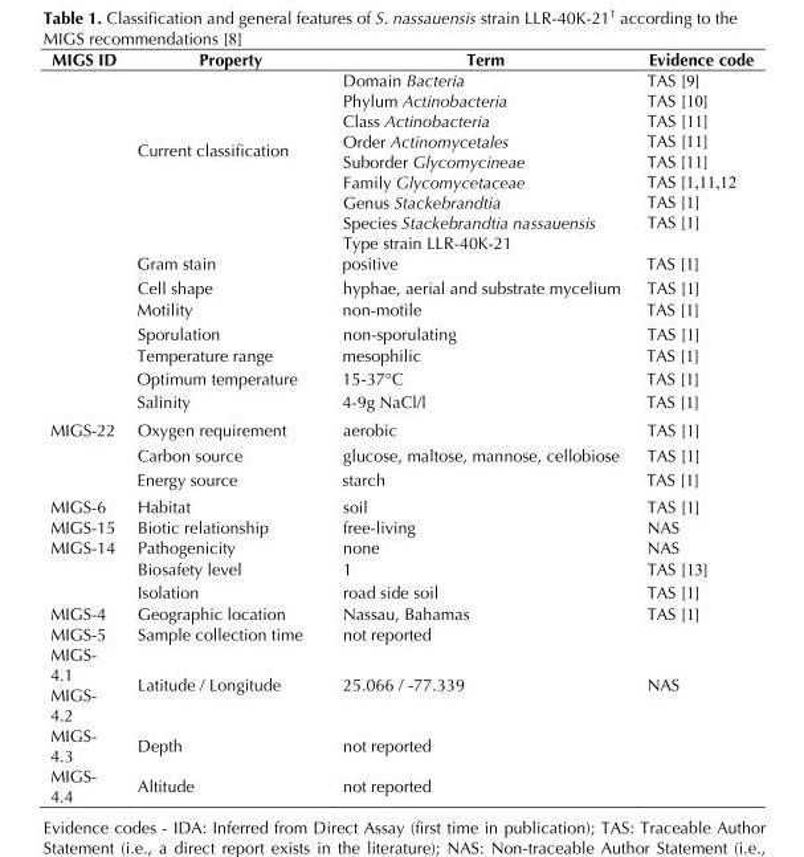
<table><thead><tr><td>MIGS ID</td><td>Property</td><td>Term</td><td>Evidence code</td></tr></thead><tbody><tr><td></td><td>Current classification</td><td>Domain Bacteria Phylum Actinobacteria Class Actinobacteria Order Actinomycetales Suborder Glycomycineae Family Glycomycetaceae Genus Stackebrandtia Species Stackebrandtia nassauensis Type strain LLR-40K-21</td><td>TAS [9] TAS [10] TAS [11] TAS [11] TAS [11] TAS [1,11,12 TAS [1] TAS [1]</td></tr><tr><td></td><td>Gram stain</td><td>positive</td><td>TAS [1]</td></tr><tr><td></td><td>Cell shape</td><td>hyphae, aerial and substrate mycelium</td><td>TAS [1]</td></tr><tr><td></td><td>Motility</td><td>non-motile</td><td>TAS [1]</td></tr><tr><td></td><td>Sporulation</td><td>non-sporulating</td><td>TAS [1]</td></tr><tr><td></td><td>Temperature range</td><td>mesophilic</td><td>TAS [1]</td></tr><tr><td></td><td>Optimum temperature</td><td>15-37°C</td><td>TAS [1]</td></tr><tr><td></td><td>Salinity</td><td>4-9g NaCl/l</td><td>TAS [1]</td></tr><tr><td rowspan="3">MIGS-22</td><td>Oxygen requirement</td><td>aerobic</td><td>TAS [1]</td></tr><tr><td>Carbon source</td><td>glucose, maltose, mannose, cellobiose</td><td>TAS [1]</td></tr><tr><td>Energy source</td><td>starch</td><td>TAS [1]</td></tr><tr><td>MIGS-6</td><td>Habitat</td><td>soil</td><td>TAS [1]</td></tr><tr><td>MIGS-15</td><td>Biotic relationship</td><td>free-living</td><td>NAS</td></tr><tr><td rowspan="3">MIGS-14</td><td>Pathogenicity</td><td>none</td><td>NAS</td></tr><tr><td>Biosafety level</td><td>1</td><td>TAS [13]</td></tr><tr><td>Isolation</td><td>road side soil</td><td>TAS [1]</td></tr><tr><td>MIGS-4</td><td>Geographic location</td><td>Nassau, Bahamas</td><td>TAS [1]</td></tr><tr><td>MIGS-5</td><td>Sample collection time</td><td>not reported</td><td></td></tr><tr><td>MIGS- 4.1 MIGS- 4.2</td><td>Latitude / Longitude</td><td>25.066 / -77.339</td><td>NAS</td></tr><tr><td>MIGS- 4.3</td><td>Depth</td><td>not reported</td><td></td></tr><tr><td>MIGS- 4.4</td><td>Altitude</td><td>not reported</td><td></td></tr></tbody></table>